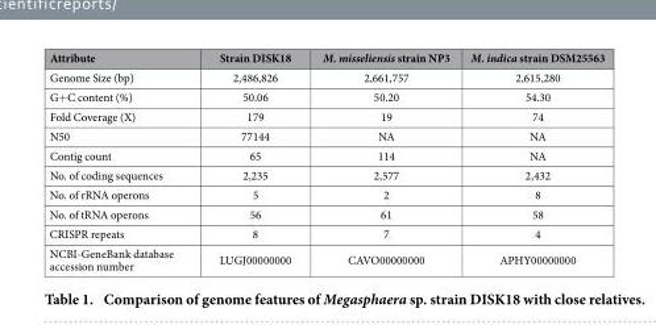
<table><thead><tr><td>Attribute</td><td>Strain DISK18</td><td>M. misseliensis strain NP3</td><td>M. indica strain DSM25563</td></tr></thead><tbody><tr><td>Genome Size (bp)</td><td>2,486,826</td><td>2,661,757</td><td>2,615,280</td></tr><tr><td>G+ C content (%)</td><td>50.06</td><td>50.20</td><td>54.30</td></tr><tr><td>Fold Coverage (X)</td><td>179</td><td>19</td><td>74</td></tr><tr><td>N50</td><td>77144</td><td>NA</td><td>NA</td></tr><tr><td>Contig count</td><td>65</td><td>114</td><td>NA</td></tr><tr><td>No. of coding sequences</td><td>2,235</td><td>2,577</td><td>2,432</td></tr><tr><td>No. of rRNA operons</td><td>5</td><td>2</td><td>8</td></tr><tr><td>No. of tRNA operons</td><td>56</td><td>61</td><td>58</td></tr><tr><td>CRISPR repeats</td><td>8</td><td>7</td><td>4</td></tr><tr><td>NCBI-GeneBank database accession number</td><td>LUGJ00000000</td><td>CAVO00000000</td><td>APHY00000000</td></tr></tbody></table>